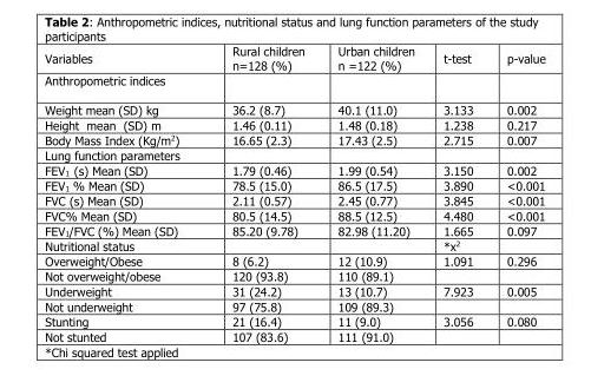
<table><thead><tr><td>Variables</td><td>Rural children n=128 (%)</td><td>Urban children n =122 (%)</td><td>t-test</td><td>p-value</td></tr></thead><tbody><tr><td colspan="5">Anthropometric indices</td></tr><tr><td>Weight mean (SD) kg</td><td>36.2 (8.7)</td><td>40.1 (11.0)</td><td>3.133</td><td>0.002</td></tr><tr><td>Height mean (SD) m</td><td>1.46 (0.11)</td><td>1.48 (0.18)</td><td>1.238</td><td>0.217</td></tr><tr><td>Body Mass Index (Kg/m<sup>2</sup>)</td><td>16.65 (2.3)</td><td>17.43 (2.5)</td><td>2.715</td><td>0.007</td></tr><tr><td colspan="5">Lung function parameters</td></tr><tr><td>FEV<sub>1</sub> (s) Mean (SD)</td><td>1.79 (0.46)</td><td>1.99 (0.54)</td><td>3.150</td><td>0.002</td></tr><tr><td>FEV<sub>1</sub> % Mean (SD)</td><td>78.5 (15.0)</td><td>86.5 (17.5)</td><td>3.890</td><td>&lt;0.001</td></tr><tr><td>FVC (s) Mean (SD)</td><td>2.11 (0.57)</td><td>2.45 (0.77)</td><td>3.845</td><td>&lt;0.001</td></tr><tr><td>FVC% Mean (SD)</td><td>80.5 (14.5)</td><td>88.5 (12.5)</td><td>4.480</td><td>&lt;0.001</td></tr><tr><td>FEV<sub>1</sub>/FVC (%) Mean (SD)</td><td>85.20 (9.78)</td><td>82.98 (11.20)</td><td>1.665</td><td>0.097</td></tr><tr><td>Nutritional status</td><td></td><td></td><td>*x<sup>2</sup></td><td></td></tr><tr><td>Overweight/Obese</td><td>8 (6.2)</td><td>12 (10.9)</td><td>1.091</td><td>0.296</td></tr><tr><td>Not overweight/obese</td><td>120 (93.8)</td><td>110 (89.1)</td><td></td><td></td></tr><tr><td>Underweight</td><td>31 (24.2)</td><td>13 (10.7)</td><td>7.923</td><td>0.005</td></tr><tr><td>Not underweight</td><td>97 (75.8)</td><td>109 (89.3)</td><td></td><td></td></tr><tr><td>Stunting</td><td>21 (16.4)</td><td>11 (9.0)</td><td>3.056</td><td>0.080</td></tr><tr><td>Not stunted</td><td>107 (83.6)</td><td>111 (91.0)</td><td></td><td></td></tr></tbody></table>